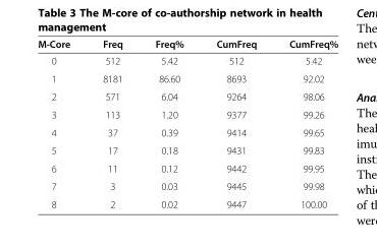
<table><thead><tr><td>M-Core</td><td>Freq</td><td>Freq%</td><td>CumFreq</td><td>CumFreq%</td></tr></thead><tbody><tr><td>0</td><td>512</td><td>5.42</td><td>512</td><td>5.42</td></tr><tr><td>1</td><td>8181</td><td>86.60</td><td>8693</td><td>92.02</td></tr><tr><td>2</td><td>571</td><td>6.04</td><td>9264</td><td>98.06</td></tr><tr><td>3</td><td>113</td><td>1.20</td><td>9377</td><td>99.26</td></tr><tr><td>4</td><td>37</td><td>0.39</td><td>9414</td><td>99.65</td></tr><tr><td>5</td><td>17</td><td>0.18</td><td>9431</td><td>99.83</td></tr><tr><td>6</td><td>11</td><td>0.12</td><td>9442</td><td>99.95</td></tr><tr><td>7</td><td>3</td><td>0.03</td><td>9445</td><td>99.98</td></tr><tr><td>8</td><td>2</td><td>0.02</td><td>9447</td><td>100.00</td></tr></tbody></table>